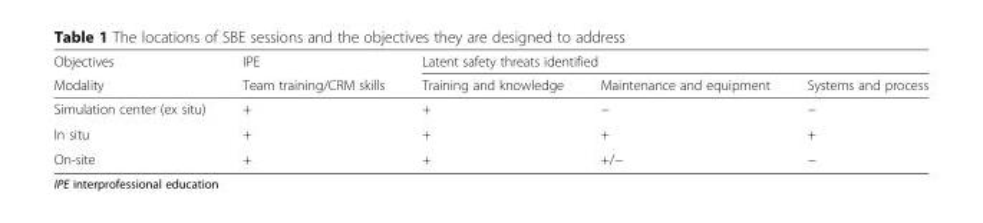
<table><thead><tr><td rowspan="2">Objectives Modality</td><td rowspan="2">IPE Team training/CRM skills</td><td colspan="3">Latent safety threats identified</td></tr><tr><td>Training and knowledge</td><td>Maintenance and equipment</td><td>Systems and process</td></tr></thead><tbody><tr><td>Simulation center (ex situ)</td><td>+</td><td>+</td><td>−</td><td>−</td></tr><tr><td>In situ</td><td>+</td><td>+</td><td>+</td><td>+</td></tr><tr><td>On-site</td><td>+</td><td>+</td><td>+/−</td><td>−</td></tr></tbody></table>